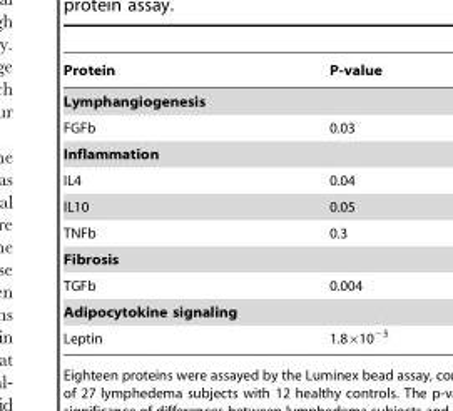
<table><thead><tr><td>Protein</td><td>P-value</td></tr></thead><tbody><tr><td colspan="2">Lymphangiogenesis</td></tr><tr><td>FGFb</td><td>0.03</td></tr><tr><td colspan="2">Inflammation</td></tr><tr><td>IL4</td><td>0.04</td></tr><tr><td>IL10</td><td>0.05</td></tr><tr><td>TNFb</td><td>0.3</td></tr><tr><td colspan="2">Fibrosis</td></tr><tr><td>TGFb</td><td>0.004</td></tr><tr><td colspan="2">Adipocytokine signaling</td></tr><tr><td>Leptin</td><td>1.8×10<sup>−5</sup></td></tr></tbody></table>